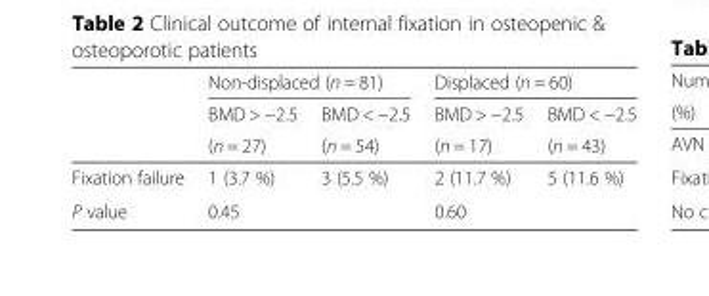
<table><thead><tr><td rowspan="3"></td><td colspan="2">Non-displaced (n = 81)</td><td colspan="2">Displaced (n = 60)</td></tr><tr><td rowspan="2">BMD &gt; −2.5 (n = 27)</td><td rowspan="2">BMD &lt; −2.5 (n = 54)</td><td rowspan="2">BMD &gt; −2.5 (n = 17)</td><td rowspan="2">BMD &lt; −2.5 (n = 43)</td></tr><tr></tr></thead><tbody><tr><td>Fixation failure</td><td>1 (3.7 %)</td><td>3 (5.5 %)</td><td>2 (11.7 %)</td><td>5 (11.6 %)</td></tr><tr><td>P value</td><td colspan="2">0.45</td><td colspan="2">0.60</td></tr></tbody></table>